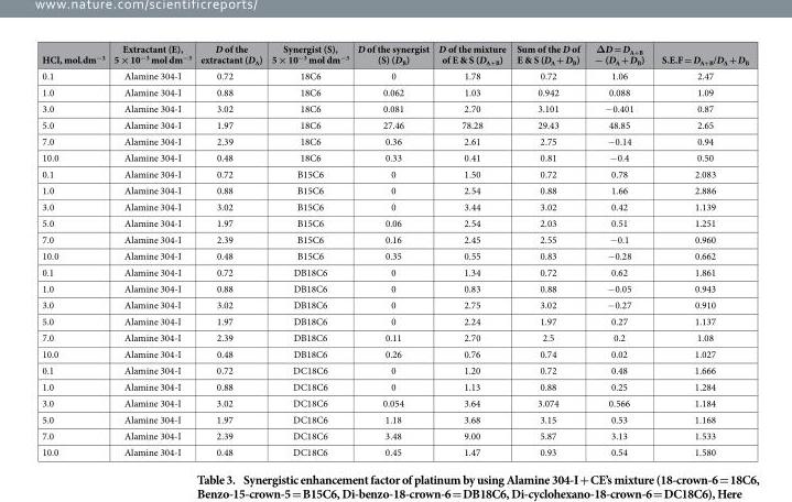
<table><thead><tr><td>HCl, mol.dm<sup>−3</sup></td><td>Extractant (E), 5 × 10<sup>−3</sup> mol dm<sup>−3</sup></td><td>D of the extractant (D<sub>A</sub>)</td><td>Synergist (S), 5 × 10<sup>−3</sup> mol dm<sup>−3</sup></td><td>D of the synergist (S) (D<sub>B</sub>)</td><td>D of the mixture of E &amp; S (D<sub>A+B</sub>)</td><td>Sum of the D of E &amp; S (D<sub>A</sub> + D<sub>B</sub>)</td><td>ΔD = D<sub>A+B</sub> − (D<sub>A</sub> + D<sub>B</sub>)</td><td>S.E.F = D<sub>A+B</sub>/D<sub>A</sub> + D<sub>B</sub></td></tr></thead><tbody><tr><td>0.1</td><td>Alamine 304-I</td><td>0.72</td><td>18C6</td><td>0</td><td>1.78</td><td>0.72</td><td>1.06</td><td>2.47</td></tr><tr><td>1.0</td><td>Alamine 304-I</td><td>0.88</td><td>18C6</td><td>0.062</td><td>1.03</td><td>0.942</td><td>0.088</td><td>1.09</td></tr><tr><td>3.0</td><td>Alamine 304-I</td><td>3.02</td><td>18C6</td><td>0.081</td><td>2.70</td><td>3.101</td><td>− 0.401</td><td>0.87</td></tr><tr><td>5.0</td><td>Alamine 304-I</td><td>1.97</td><td>18C6</td><td>27.46</td><td>78.28</td><td>29.43</td><td>48.85</td><td>2.65</td></tr><tr><td>7.0</td><td>Alamine 304-I</td><td>2.39</td><td>18C6</td><td>0.36</td><td>2.61</td><td>2.75</td><td>− 0.14</td><td>0.94</td></tr><tr><td>10.0</td><td>Alamine 304-I</td><td>0.48</td><td>18C6</td><td>0.33</td><td>0.41</td><td>0.81</td><td>− 0.4</td><td>0.50</td></tr><tr><td>0.1</td><td>Alamine 304-I</td><td>0.72</td><td>B15C6</td><td>0</td><td>1.50</td><td>0.72</td><td>0.78</td><td>2.083</td></tr><tr><td>1.0</td><td>Alamine 304-I</td><td>0.88</td><td>B15C6</td><td>0</td><td>2.54</td><td>0.88</td><td>1.66</td><td>2.886</td></tr><tr><td>3.0</td><td>Alamine 304-I</td><td>3.02</td><td>B15C6</td><td>0</td><td>3.44</td><td>3.02</td><td>0.42</td><td>1.139</td></tr><tr><td>5.0</td><td>Alamine 304-I</td><td>1.97</td><td>B15C6</td><td>0.06</td><td>2.54</td><td>2.03</td><td>0.51</td><td>1.251</td></tr><tr><td>7.0</td><td>Alamine 304-I</td><td>2.39</td><td>B15C6</td><td>0.16</td><td>2.45</td><td>2.55</td><td>− 0.1</td><td>0.960</td></tr><tr><td>10.0</td><td>Alamine 304-I</td><td>0.48</td><td>B15C6</td><td>0.35</td><td>0.55</td><td>0.83</td><td>− 0.28</td><td>0.662</td></tr><tr><td>0.1</td><td>Alamine 304-I</td><td>0.72</td><td>DB18C6</td><td>0</td><td>1.34</td><td>0.72</td><td>0.62</td><td>1.861</td></tr><tr><td>1.0</td><td>Alamine 304-I</td><td>0.88</td><td>DB18C6</td><td>0</td><td>0.83</td><td>0.88</td><td>− 0.05</td><td>0.943</td></tr><tr><td>3.0</td><td>Alamine 304-I</td><td>3.02</td><td>DB18C6</td><td>0</td><td>2.75</td><td>3.02</td><td>− 0.27</td><td>0.910</td></tr><tr><td>5.0</td><td>Alamine 304-I</td><td>1.97</td><td>DB18C6</td><td>0</td><td>2.24</td><td>1.97</td><td>0.27</td><td>1.137</td></tr><tr><td>7.0</td><td>Alamine 304-I</td><td>2.39</td><td>DB18C6</td><td>0.11</td><td>2.70</td><td>2.5</td><td>0.2</td><td>1.08</td></tr><tr><td>10.0</td><td>Alamine 304-I</td><td>0.48</td><td>DB18C6</td><td>0.26</td><td>0.76</td><td>0.74</td><td>0.02</td><td>1.027</td></tr><tr><td>0.1</td><td>Alamine 304-I</td><td>0.72</td><td>DC18C6</td><td>0</td><td>1.20</td><td>0.72</td><td>0.48</td><td>1.666</td></tr><tr><td>1.0</td><td>Alamine 304-I</td><td>0.88</td><td>DC18C6</td><td>0</td><td>1.13</td><td>0.88</td><td>0.25</td><td>1.284</td></tr><tr><td>3.0</td><td>Alamine 304-I</td><td>3.02</td><td>DC18C6</td><td>0.054</td><td>3.64</td><td>3.074</td><td>0.566</td><td>1.184</td></tr><tr><td>5.0</td><td>Alamine 304-I</td><td>1.97</td><td>DC18C6</td><td>1.18</td><td>3.68</td><td>3.15</td><td>0.53</td><td>1.168</td></tr><tr><td>7.0</td><td>Alamine 304-I</td><td>2.39</td><td>DC18C6</td><td>3.48</td><td>9.00</td><td>5.87</td><td>3.13</td><td>1.533</td></tr><tr><td>10.0</td><td>Alamine 304-I</td><td>0.48</td><td>DC18C6</td><td>0.45</td><td>1.47</td><td>0.93</td><td>0.54</td><td>1.580</td></tr></tbody></table>